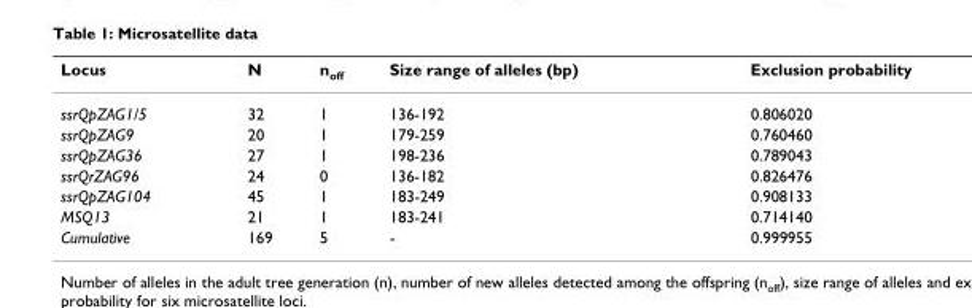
<table><thead><tr><td>Locus</td><td>N</td><td>n<sub>off</sub></td><td>Size range of alleles (bp)</td><td>Exclusion probability</td></tr></thead><tbody><tr><td>ssrQpZAG1/5</td><td>32</td><td>1</td><td>136-192</td><td>0.806020</td></tr><tr><td>ssrQpZAG9</td><td>20</td><td>1</td><td>179-259</td><td>0.760460</td></tr><tr><td>ssrQpZAG36</td><td>27</td><td>1</td><td>198-236</td><td>0.789043</td></tr><tr><td>ssrQrZAG96</td><td>24</td><td>0</td><td>136-182</td><td>0.826476</td></tr><tr><td>ssrQpZAG104</td><td>45</td><td>1</td><td>183-249</td><td>0.908133</td></tr><tr><td>MSQ13</td><td>21</td><td>1</td><td>183-241</td><td>0.714140</td></tr><tr><td>Cumulative</td><td>169</td><td>5</td><td>-</td><td>0.999955</td></tr></tbody></table>